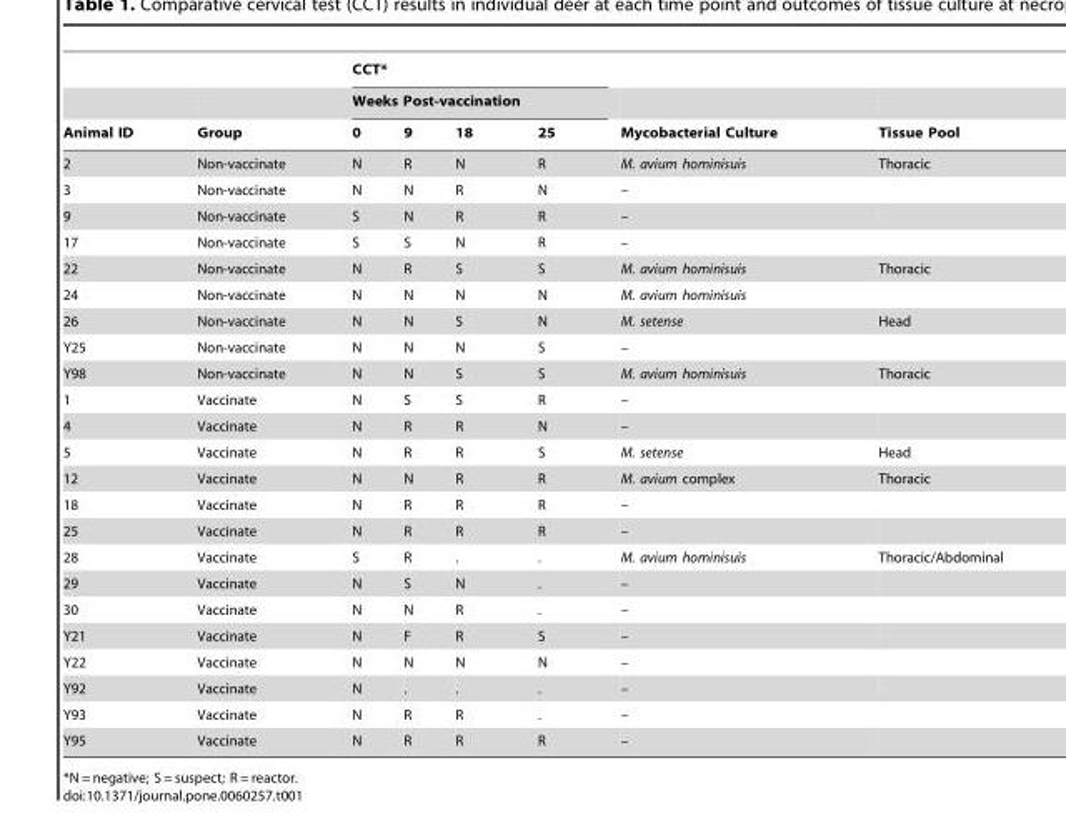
<table><thead><tr><td rowspan="3">Animal ID</td><td rowspan="3">Group</td><td rowspan="2" colspan="4">CCT* Weeks Post-vaccination</td><td rowspan="3">Mycobacterial Culture</td><td rowspan="3">Tissue Pool</td></tr><tr></tr><tr><td>0</td><td>9</td><td>18</td><td>25</td></tr></thead><tbody><tr><td>2</td><td>Non-vaccinate</td><td>N</td><td>R</td><td>N</td><td>R</td><td>M. avium hominisuis</td><td>Thoracic</td></tr><tr><td>3</td><td>Non-vaccinate</td><td>N</td><td>N</td><td>R</td><td>N</td><td>–</td><td></td></tr><tr><td>9</td><td>Non-vaccinate</td><td>S</td><td>N</td><td>R</td><td>R</td><td>–</td><td></td></tr><tr><td>17</td><td>Non-vaccinate</td><td>S</td><td>S</td><td>N</td><td>R</td><td>–</td><td></td></tr><tr><td>22</td><td>Non-vaccinate</td><td>N</td><td>R</td><td>S</td><td>S</td><td>M. avium hominisuis</td><td>Thoracic</td></tr><tr><td>24</td><td>Non-vaccinate</td><td>N</td><td>N</td><td>N</td><td>N</td><td>M. avium hominisuis</td><td></td></tr><tr><td>26</td><td>Non-vaccinate</td><td>N</td><td>N</td><td>S</td><td>N</td><td>M. setense</td><td>Head</td></tr><tr><td>Y25</td><td>Non-vaccinate</td><td>N</td><td>N</td><td>N</td><td>S</td><td>–</td><td></td></tr><tr><td>Y98</td><td>Non-vaccinate</td><td>N</td><td>N</td><td>S</td><td>S</td><td>M. avium hominisuis</td><td>Thoracic</td></tr><tr><td>1</td><td>Vaccinate</td><td>N</td><td>S</td><td>S</td><td>R</td><td>–</td><td></td></tr><tr><td>4</td><td>Vaccinate</td><td>N</td><td>R</td><td>R</td><td>N</td><td>–</td><td></td></tr><tr><td>5</td><td>Vaccinate</td><td>N</td><td>R</td><td>R</td><td>S</td><td>M. setense</td><td>Head</td></tr><tr><td>12</td><td>Vaccinate</td><td>N</td><td>N</td><td>R</td><td>R</td><td>M. avium complex</td><td>Thoracic</td></tr><tr><td>18</td><td>Vaccinate</td><td>N</td><td>R</td><td>R</td><td>R</td><td>–</td><td></td></tr><tr><td>25</td><td>Vaccinate</td><td>N</td><td>R</td><td>R</td><td>R</td><td>–</td><td></td></tr><tr><td>28</td><td>Vaccinate</td><td>S</td><td>R</td><td>.</td><td>.</td><td>M. avium hominisuis</td><td>Thoracic/Abdominal</td></tr><tr><td>29</td><td>Vaccinate</td><td>N</td><td>S</td><td>N</td><td>.</td><td>–</td><td></td></tr><tr><td>30</td><td>Vaccinate</td><td>N</td><td>N</td><td>R</td><td>.</td><td>–</td><td></td></tr><tr><td>Y21</td><td>Vaccinate</td><td>N</td><td>F</td><td>R</td><td>S</td><td>–</td><td></td></tr><tr><td>Y22</td><td>Vaccinate</td><td>N</td><td>N</td><td>N</td><td>N</td><td>–</td><td></td></tr><tr><td>Y92</td><td>Vaccinate</td><td>N</td><td>.</td><td>.</td><td>.</td><td>–</td><td></td></tr><tr><td>Y93</td><td>Vaccinate</td><td>N</td><td>R</td><td>R</td><td>.</td><td>–</td><td></td></tr><tr><td>Y95</td><td>Vaccinate</td><td>N</td><td>R</td><td>R</td><td>R</td><td>–</td><td></td></tr></tbody></table>